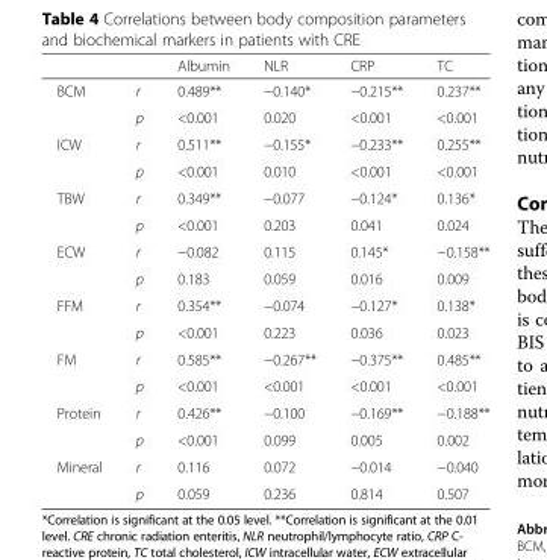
<table><thead><tr><td></td><td></td><td>Albumin</td><td>NLR</td><td>CRP</td><td>TC</td></tr></thead><tbody><tr><td rowspan="2">BCM</td><td>r</td><td>0.489**</td><td>−0.140*</td><td>−0.215**</td><td>0.237**</td></tr><tr><td>p</td><td>&lt;0.001</td><td>0.020</td><td>&lt;0.001</td><td>&lt;0.001</td></tr><tr><td rowspan="2">ICW</td><td>r</td><td>0.511**</td><td>−0.155*</td><td>−0.233**</td><td>0.255**</td></tr><tr><td>p</td><td>&lt;0.001</td><td>0.010</td><td>&lt;0.001</td><td>&lt;0.001</td></tr><tr><td rowspan="2">TBW</td><td>r</td><td>0.349**</td><td>−0.077</td><td>−0.124*</td><td>0.136*</td></tr><tr><td>p</td><td>&lt;0.001</td><td>0.203</td><td>0.041</td><td>0.024</td></tr><tr><td rowspan="2">ECW</td><td>r</td><td>−0.082</td><td>0.115</td><td>0.145*</td><td>−0.158**</td></tr><tr><td>p</td><td>0.183</td><td>0.059</td><td>0.016</td><td>0.009</td></tr><tr><td rowspan="2">FFM</td><td>r</td><td>0.354**</td><td>−0.074</td><td>−0.127*</td><td>0.138*</td></tr><tr><td>p</td><td>&lt;0.001</td><td>0.223</td><td>0.036</td><td>0.023</td></tr><tr><td rowspan="2">FM</td><td>r</td><td>0.585**</td><td>−0.267**</td><td>−0.375**</td><td>0.485**</td></tr><tr><td>p</td><td>&lt;0.001</td><td>&lt;0.001</td><td>&lt;0.001</td><td>&lt;0.001</td></tr><tr><td rowspan="2">Protein</td><td>r</td><td>0.426**</td><td>−0.100</td><td>−0.169**</td><td>−0.188**</td></tr><tr><td>p</td><td>&lt;0.001</td><td>0.099</td><td>0.005</td><td>0.002</td></tr><tr><td rowspan="2">Mineral</td><td>r</td><td>0.116</td><td>0.072</td><td>−0.014</td><td>−0.040</td></tr><tr><td>p</td><td>0.059</td><td>0.236</td><td>0.814</td><td>0.507</td></tr></tbody></table>